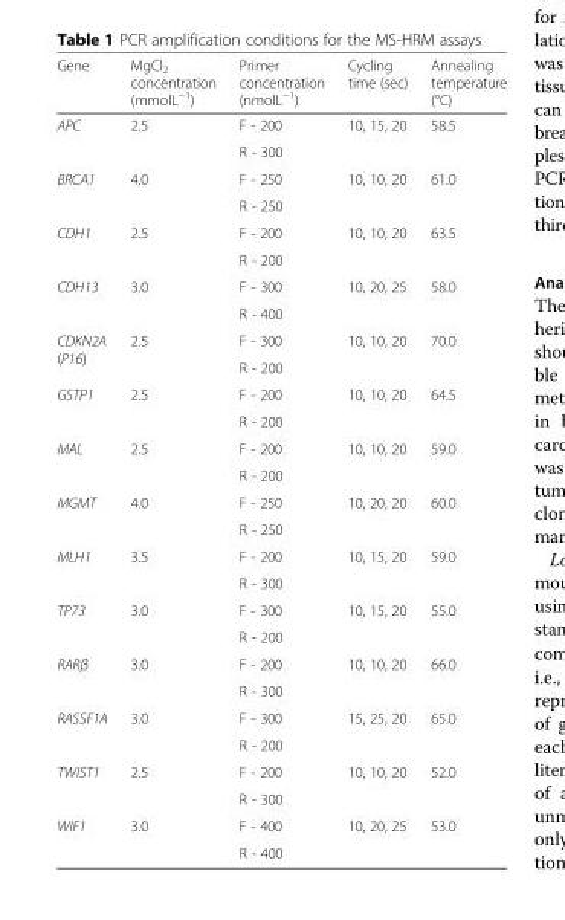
<table><thead><tr><td>Gene</td><td>MgCl<sub>2</sub> concentration (mmolL<sup>−1</sup>)</td><td>Primer concentration (nmolL<sup>−1</sup>)</td><td>Cycling time (sec)</td><td>Annealing temperature (°C)</td></tr></thead><tbody><tr><td rowspan="2">APC</td><td rowspan="2">2.5</td><td>F - 200</td><td rowspan="2">10, 15, 20</td><td rowspan="2">58.5</td></tr><tr><td>R - 300</td></tr><tr><td rowspan="2">BRCA1</td><td rowspan="2">4.0</td><td>F - 250</td><td rowspan="2">10, 10, 20</td><td rowspan="2">61.0</td></tr><tr><td>R - 250</td></tr><tr><td rowspan="2">CDH1</td><td rowspan="2">2.5</td><td>F - 200</td><td rowspan="2">10, 10, 20</td><td rowspan="2">63.5</td></tr><tr><td>R - 200</td></tr><tr><td rowspan="2">CDH13</td><td rowspan="2">3.0</td><td>F - 300</td><td rowspan="2">10, 20, 25</td><td rowspan="2">58.0</td></tr><tr><td>R - 400</td></tr><tr><td rowspan="2">CDKN2A (P16)</td><td rowspan="2">2.5</td><td>F - 300</td><td rowspan="2">10, 10, 20</td><td rowspan="2">70.0</td></tr><tr><td>R - 200</td></tr><tr><td rowspan="2">GSTP1</td><td rowspan="2">2.5</td><td>F - 200</td><td rowspan="2">10, 10, 20</td><td rowspan="2">64.5</td></tr><tr><td>R - 200</td></tr><tr><td rowspan="2">MAL</td><td rowspan="2">2.5</td><td>F - 200</td><td rowspan="2">10, 10, 20</td><td rowspan="2">59.0</td></tr><tr><td>R - 200</td></tr><tr><td rowspan="2">MGMT</td><td rowspan="2">4.0</td><td>F - 250</td><td rowspan="2">10, 20, 20</td><td rowspan="2">60.0</td></tr><tr><td>R - 250</td></tr><tr><td rowspan="2">MLH1</td><td rowspan="2">3.5</td><td>F - 200</td><td rowspan="2">10, 15, 20</td><td rowspan="2">59.0</td></tr><tr><td>R - 300</td></tr><tr><td rowspan="2">TP73</td><td rowspan="2">3.0</td><td>F - 300</td><td rowspan="2">10, 15, 20</td><td rowspan="2">55.0</td></tr><tr><td>R - 200</td></tr><tr><td rowspan="2">RARβ</td><td rowspan="2">3.0</td><td>F - 200</td><td rowspan="2">10, 10, 20</td><td rowspan="2">66.0</td></tr><tr><td>R - 300</td></tr><tr><td rowspan="2">RASSF1A</td><td rowspan="2">3.0</td><td>F - 300</td><td rowspan="2">15, 25, 20</td><td rowspan="2">65.0</td></tr><tr><td>R - 200</td></tr><tr><td rowspan="2">TWIST1</td><td rowspan="2">2.5</td><td>F - 200</td><td rowspan="2">10, 10, 20</td><td rowspan="2">52.0</td></tr><tr><td>R - 300</td></tr><tr><td rowspan="2">WIF1</td><td rowspan="2">3.0</td><td>F - 400</td><td rowspan="2">10, 20, 25</td><td rowspan="2">53.0</td></tr><tr><td>R - 400</td></tr></tbody></table>